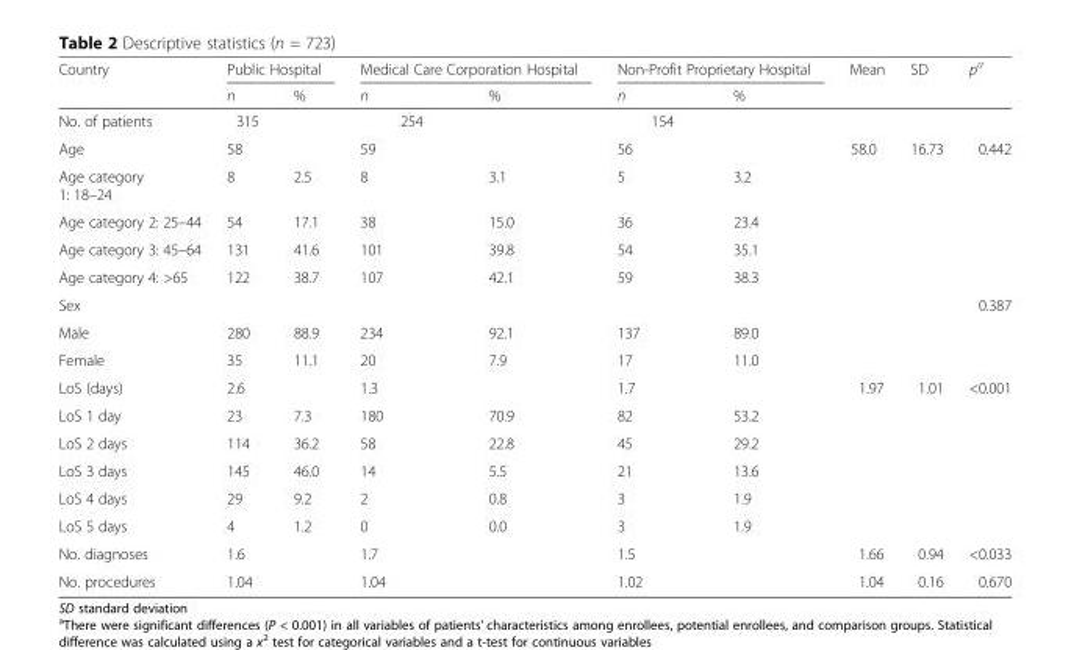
<table><thead><tr><td rowspan="2">Country</td><td colspan="2">Public Hospital</td><td colspan="2">Medical Care Corporation Hospital</td><td colspan="2">Non-Profit Proprietary Hospital</td><td rowspan="2">Mean</td><td rowspan="2">SD</td><td rowspan="2">p<sup>a</sup></td></tr><tr><td>n</td><td>%</td><td>n</td><td>%</td><td>n</td><td>%</td></tr></thead><tbody><tr><td>No. of patients</td><td>315</td><td></td><td>254</td><td></td><td>154</td><td></td><td></td><td></td><td></td></tr><tr><td>Age</td><td>58</td><td></td><td>59</td><td></td><td>56</td><td></td><td>58.0</td><td>16.73</td><td>0.442</td></tr><tr><td>Age category 1: 18–24</td><td>8</td><td>2.5</td><td>8</td><td>3.1</td><td>5</td><td>3.2</td><td></td><td></td><td></td></tr><tr><td>Age category 2: 25–44</td><td>54</td><td>17.1</td><td>38</td><td>15.0</td><td>36</td><td>23.4</td><td></td><td></td><td></td></tr><tr><td>Age category 3: 45–64</td><td>131</td><td>41.6</td><td>101</td><td>39.8</td><td>54</td><td>35.1</td><td></td><td></td><td></td></tr><tr><td>Age category 4: &gt;65</td><td>122</td><td>38.7</td><td>107</td><td>42.1</td><td>59</td><td>38.3</td><td></td><td></td><td></td></tr><tr><td>Sex</td><td></td><td></td><td></td><td></td><td></td><td></td><td></td><td></td><td>0.387</td></tr><tr><td>Male</td><td>280</td><td>88.9</td><td>234</td><td>92.1</td><td>137</td><td>89.0</td><td></td><td></td><td></td></tr><tr><td>Female</td><td>35</td><td>11.1</td><td>20</td><td>7.9</td><td>17</td><td>11.0</td><td></td><td></td><td></td></tr><tr><td>LoS (days)</td><td>2.6</td><td></td><td>1.3</td><td></td><td>1.7</td><td></td><td>1.97</td><td>1.01</td><td>&lt;0.001</td></tr><tr><td>LoS 1 day</td><td>23</td><td>7.3</td><td>180</td><td>70.9</td><td>82</td><td>53.2</td><td></td><td></td><td></td></tr><tr><td>LoS 2 days</td><td>114</td><td>36.2</td><td>58</td><td>22.8</td><td>45</td><td>29.2</td><td></td><td></td><td></td></tr><tr><td>LoS 3 days</td><td>145</td><td>46.0</td><td>14</td><td>5.5</td><td>21</td><td>13.6</td><td></td><td></td><td></td></tr><tr><td>LoS 4 days</td><td>29</td><td>9.2</td><td>2</td><td>0.8</td><td>3</td><td>1.9</td><td></td><td></td><td></td></tr><tr><td>LoS 5 days</td><td>4</td><td>1.2</td><td>0</td><td>0.0</td><td>3</td><td>1.9</td><td></td><td></td><td></td></tr><tr><td>No. diagnoses</td><td>1.6</td><td></td><td>1.7</td><td></td><td>1.5</td><td></td><td>1.66</td><td>0.94</td><td>&lt;0.033</td></tr><tr><td>No. procedures</td><td>1.04</td><td></td><td>1.04</td><td></td><td>1.02</td><td></td><td>1.04</td><td>0.16</td><td>0.670</td></tr></tbody></table>